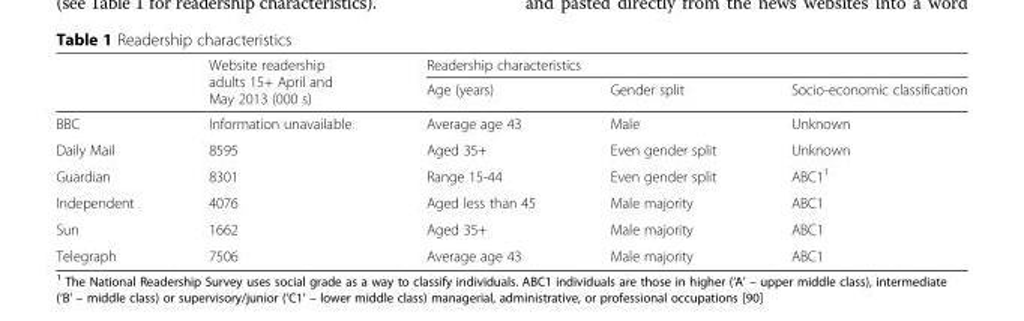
<table><thead><tr><td rowspan="2"></td><td rowspan="2">Website readership adults 15+ April and May 2013 (000 s)</td><td colspan="3">Readership characteristics</td></tr><tr><td>Age (years)</td><td>Gender split</td><td>Socio-economic classification</td></tr></thead><tbody><tr><td>BBC</td><td>Information unavailable</td><td>Average age 43</td><td>Male</td><td>Unknown</td></tr><tr><td>Daily Mail</td><td>8595</td><td>Aged 35+</td><td>Even gender split</td><td>Unknown</td></tr><tr><td>Guardian</td><td>8301</td><td>Range 15-44</td><td>Even gender split</td><td>ABC1<sup>1</sup></td></tr><tr><td>Independent</td><td>4076</td><td>Aged less than 45</td><td>Male majority</td><td>ABC1</td></tr><tr><td>Sun</td><td>1662</td><td>Aged 35+</td><td>Male majority</td><td>ABC1</td></tr><tr><td>Telegraph</td><td>7506</td><td>Average age 43</td><td>Male majority</td><td>ABC1</td></tr></tbody></table>